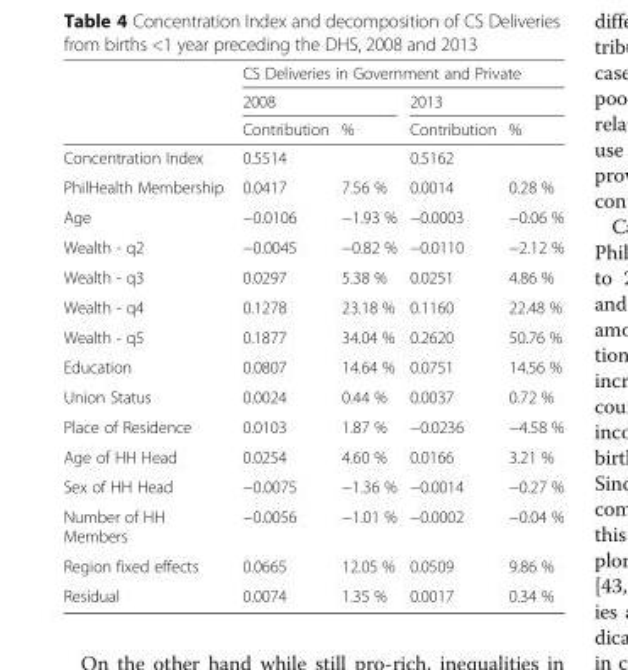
<table><thead><tr><td rowspan="3"></td><td colspan="4">CS Deliveries in Government and Private</td></tr><tr><td colspan="2">2008</td><td colspan="2">2013</td></tr><tr><td>Contribution</td><td>%</td><td>Contribution</td><td>%</td></tr></thead><tbody><tr><td>Concentration Index</td><td colspan="2">0.5514</td><td colspan="2">0.5162</td></tr><tr><td>PhilHealth Membership</td><td>0.0417</td><td>7.56 %</td><td>0.0014</td><td>0.28 %</td></tr><tr><td>Age</td><td>−0.0106</td><td>−1.93 %</td><td>−0.0003</td><td>−0.06 %</td></tr><tr><td>Wealth - q2</td><td>−0.0045</td><td>−0.82 %</td><td>−0.0110</td><td>−2.12 %</td></tr><tr><td>Wealth - q3</td><td>0.0297</td><td>5.38 %</td><td>0.0251</td><td>4.86 %</td></tr><tr><td>Wealth - q4</td><td>0.1278</td><td>23.18 %</td><td>0.1160</td><td>22.48 %</td></tr><tr><td>Wealth - q5</td><td>0.1877</td><td>34.04 %</td><td>0.2620</td><td>50.76 %</td></tr><tr><td>Education</td><td>0.0807</td><td>14.64 %</td><td>0.0751</td><td>14.56 %</td></tr><tr><td>Union Status</td><td>0.0024</td><td>0.44 %</td><td>0.0037</td><td>0.72 %</td></tr><tr><td>Place of Residence</td><td>0.0103</td><td>1.87 %</td><td>−0.0236</td><td>−4.58 %</td></tr><tr><td>Age of HH Head</td><td>0.0254</td><td>4.60 %</td><td>0.0166</td><td>3.21 %</td></tr><tr><td>Sex of HH Head</td><td>−0.0075</td><td>−1.36 %</td><td>−0.0014</td><td>−0.27 %</td></tr><tr><td>Number of HH Members</td><td>−0.0056</td><td>−1.01 %</td><td>−0.0002</td><td>−0.04 %</td></tr><tr><td>Region fixed effects</td><td>0.0665</td><td>12.05 %</td><td>0.0509</td><td>9.86 %</td></tr><tr><td>Residual</td><td>0.0074</td><td>1.35 %</td><td>0.0017</td><td>0.34 %</td></tr></tbody></table>